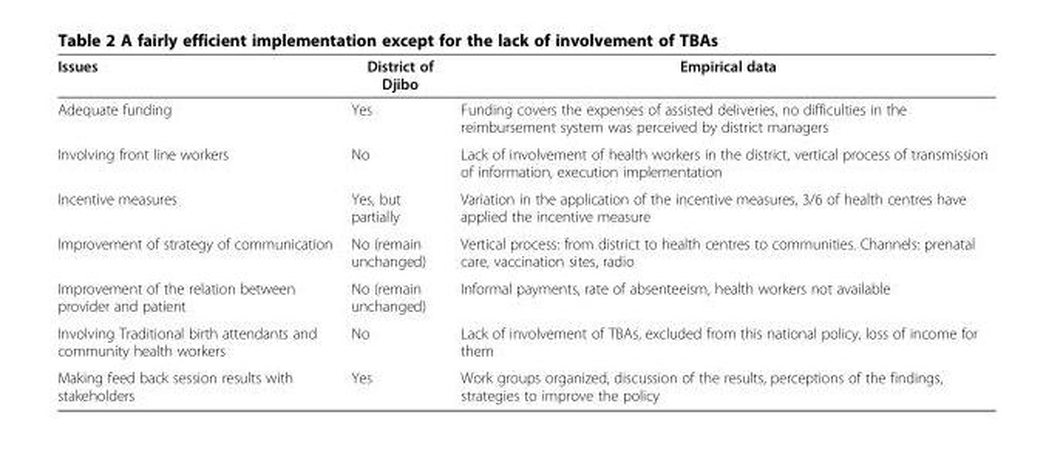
<table><thead><tr><td>Issues</td><td>District of Djibo</td><td>Empirical data</td></tr></thead><tbody><tr><td>Adequate funding</td><td>Yes</td><td>Funding covers the expenses of assisted deliveries, no difficulties in the reimbursement system was perceived by district managers</td></tr><tr><td>Involving front line workers</td><td>No</td><td>Lack of involvement of health workers in the district, vertical process of transmission of information, execution implementation</td></tr><tr><td>Incentive measures</td><td>Yes, but partially</td><td>Variation in the application of the incentive measures, 3/6 of health centres have applied the incentive measure</td></tr><tr><td>Improvement of strategy of communication</td><td>No (remain unchanged)</td><td>Vertical process: from district to health centres to communities. Channels: prenatal care, vaccination sites, radio</td></tr><tr><td>Improvement of the relation between provider and patient</td><td>No (remain unchanged)</td><td>Informal payments, rate of absenteeism, health workers not available</td></tr><tr><td>Involving Traditional birth attendants and community health workers</td><td>No</td><td>Lack of involvement of TBAs, excluded from this national policy, loss of income for them</td></tr><tr><td>Making feed back session results with stakeholders</td><td>Yes</td><td>Work groups organized, discussion of the results, perceptions of the findings, strategies to improve the policy</td></tr></tbody></table>